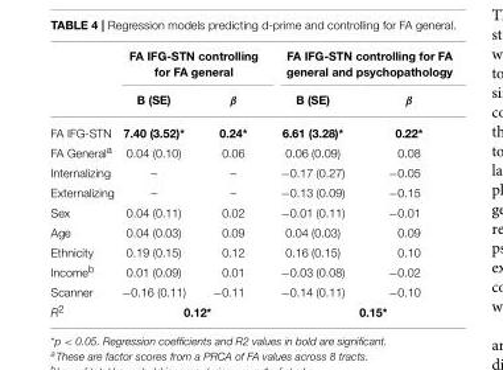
<table><thead><tr><td rowspan="2"></td><td colspan="2">FA IFG-STN controlling for FA general</td><td colspan="2">FA IFG-STN controlling for FA general and psychopathology</td></tr><tr><td>B (SE)</td><td>β</td><td>B (SE)</td><td>β</td></tr></thead><tbody><tr><td>FA IFG-STN</td><td>7.40 (3.52)*</td><td>0.24*</td><td>6.61 (3.28)*</td><td>0.22*</td></tr><tr><td>FA General<sup>a</sup></td><td>0.04 (0.10)</td><td>0.06</td><td>0.06 (0.09)</td><td>0.08</td></tr><tr><td>Internalizing</td><td>–</td><td>–</td><td>−0.17 (0.27)</td><td>−0.05</td></tr><tr><td>Externalizing</td><td>–</td><td>–</td><td>−0.13 (0.09)</td><td>−0.15</td></tr><tr><td>Sex</td><td>0.04 (0.11)</td><td>0.02</td><td>−0.01 (0.11)</td><td>−0.01</td></tr><tr><td>Age</td><td>0.04 (0.03)</td><td>0.09</td><td>0.04 (0.03)</td><td>0.09</td></tr><tr><td>Ethnicity</td><td>0.19 (0.15)</td><td>0.12</td><td>0.16 (0.15)</td><td>0.10</td></tr><tr><td>Income<sup>b</sup></td><td>0.01 (0.09)</td><td>0.01</td><td>−0.03 (0.08)</td><td>−0.02</td></tr><tr><td>Scanner</td><td>−0.16 (0.11)</td><td>−0.11</td><td>−0.14 (0.11)</td><td>−0.10</td></tr><tr><td>R<sup>2</sup></td><td colspan="2">0.12*</td><td colspan="2">0.15*</td></tr></tbody></table>